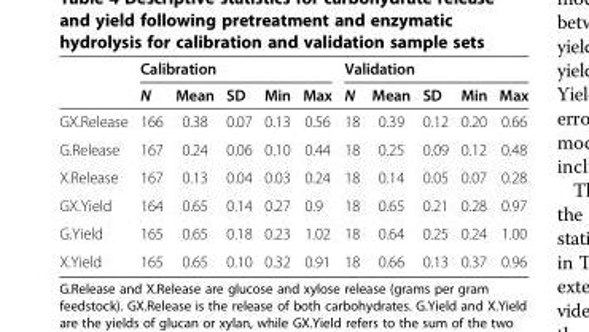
<table><thead><tr><td rowspan="2"></td><td colspan="5">Calibration</td><td colspan="5">Validation</td></tr><tr><td>N</td><td>Mean</td><td>SD</td><td>Min</td><td>Max</td><td>N</td><td>Mean</td><td>SD</td><td>Min</td><td>Max</td></tr></thead><tbody><tr><td>GX.Release</td><td>166</td><td>0.38</td><td>0.07</td><td>0.13</td><td>0.56</td><td>18</td><td>0.39</td><td>0.12</td><td>0.20</td><td>0.66</td></tr><tr><td>G.Release</td><td>167</td><td>0.24</td><td>0.06</td><td>0.10</td><td>0.44</td><td>18</td><td>0.25</td><td>0.09</td><td>0.12</td><td>0.48</td></tr><tr><td>X.Release</td><td>167</td><td>0.13</td><td>0.04</td><td>0.03</td><td>0.24</td><td>18</td><td>0.14</td><td>0.05</td><td>0.07</td><td>0.28</td></tr><tr><td>GX.Yield</td><td>164</td><td>0.65</td><td>0.14</td><td>0.27</td><td>0.9</td><td>18</td><td>0.65</td><td>0.21</td><td>0.28</td><td>0.97</td></tr><tr><td>G.Yield</td><td>165</td><td>0.65</td><td>0.18</td><td>0.23</td><td>1.02</td><td>18</td><td>0.64</td><td>0.25</td><td>0.24</td><td>1.00</td></tr><tr><td>X.Yield</td><td>165</td><td>0.65</td><td>0.10</td><td>0.32</td><td>0.91</td><td>18</td><td>0.66</td><td>0.13</td><td>0.37</td><td>0.96</td></tr></tbody></table>